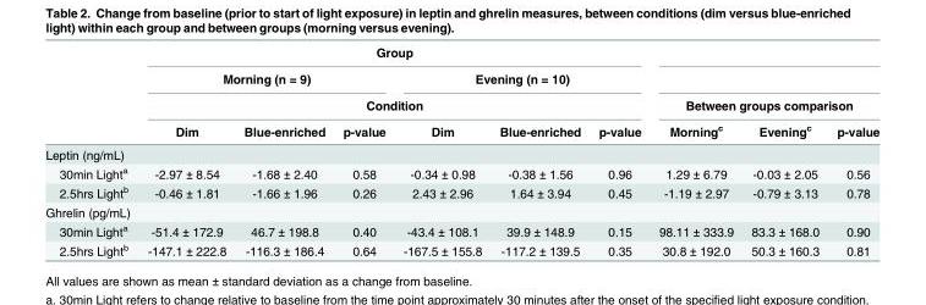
<table><thead><tr><td rowspan="4"></td><td colspan="6">Group</td><td rowspan="2"></td><td rowspan="2"></td><td rowspan="2"></td></tr><tr><td colspan="3">Morning (n = 9)</td><td colspan="3">Evening (n = 10)</td></tr><tr><td colspan="6">Condition</td><td colspan="3">Between groups comparison</td></tr><tr><td>Dim</td><td>Blue-enriched</td><td>p-value</td><td>Dim</td><td>Blue-enriched</td><td>p-value</td><td>Morning<sup>c</sup></td><td>Evening<sup>c</sup></td><td>p-value</td></tr></thead><tbody><tr><td colspan="10">Leptin (ng/mL)</td></tr><tr><td>30min Light<sup>a</sup></td><td>-2.97 ± 8.54</td><td>-1.68 ± 2.40</td><td>0.58</td><td>-0.34 ± 0.98</td><td>-0.38 ± 1.56</td><td>0.96</td><td>1.29 ± 6.79</td><td>-0.03 ± 2.05</td><td>0.56</td></tr><tr><td>2.5hrs Light<sup>b</sup></td><td>-0.46 ± 1.81</td><td>-1.66 ± 1.96</td><td>0.26</td><td>2.43 ± 2.96</td><td>1.64 ± 3.94</td><td>0.45</td><td>-1.19 ± 2.97</td><td>-0.79 ± 3.13</td><td>0.78</td></tr><tr><td colspan="10">Ghrelin (pg/mL)</td></tr><tr><td>30min Light<sup>a</sup></td><td>-51.4 ± 172.9</td><td>46.7 ± 198.8</td><td>0.40</td><td>-43.4 ± 108.1</td><td>39.9 ± 148.9</td><td>0.15</td><td>98.11 ± 333.9</td><td>83.3 ± 168.0</td><td>0.90</td></tr><tr><td>2.5hrs Light<sup>b</sup></td><td>-147.1 ± 222.8</td><td>-116.3 ± 186.4</td><td>0.64</td><td>-167.5 ± 155.8</td><td>-117.2 ± 139.5</td><td>0.35</td><td>30.8 ± 192.0</td><td>50.3 ± 160.3</td><td>0.81</td></tr></tbody></table>